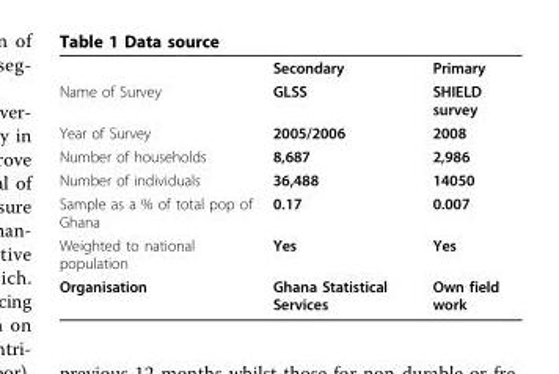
<table><thead><tr><td></td><td>Secondary</td><td>Primary</td></tr></thead><tbody><tr><td>Name of Survey</td><td>GLSS</td><td>SHIELD survey</td></tr><tr><td>Year of Survey</td><td>2005/2006</td><td>2008</td></tr><tr><td>Number of households</td><td>8,687</td><td>2,986</td></tr><tr><td>Number of individuals</td><td>36,488</td><td>14050</td></tr><tr><td>Sample as a % of total pop of Ghana</td><td>0.17</td><td>0.007</td></tr><tr><td>Weighted to national population</td><td>Yes</td><td>Yes</td></tr><tr><td>Organisation</td><td>Ghana Statistical Services</td><td>Own field work</td></tr></tbody></table>